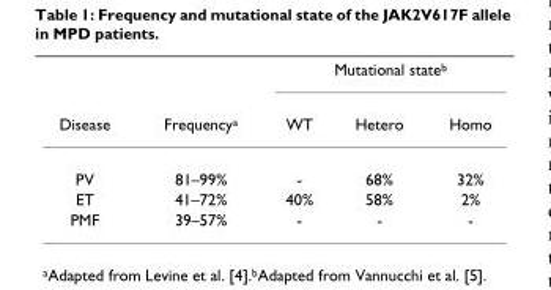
<table><thead><tr><td rowspan="2">Disease</td><td rowspan="2">Frequency<sup>a</sup></td><td colspan="3">Mutational state<sup>b</sup></td></tr><tr><td>WT</td><td>Hetero</td><td>Homo</td></tr></thead><tbody><tr><td>PV</td><td>81–99%</td><td>-</td><td>68%</td><td>32%</td></tr><tr><td>ET</td><td>41–72%</td><td>40%</td><td>58%</td><td>2%</td></tr><tr><td>PMF</td><td>39–57%</td><td>-</td><td>-</td><td>-</td></tr></tbody></table>